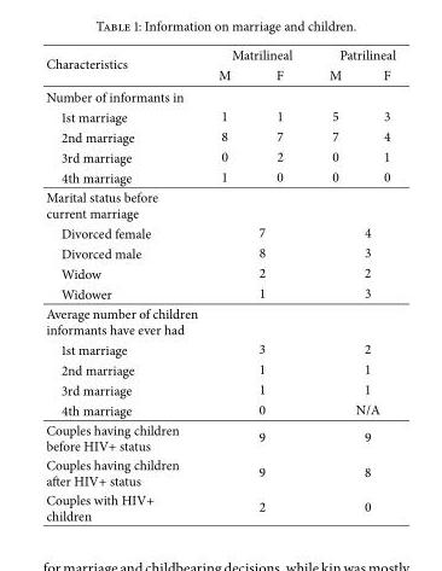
<table><thead><tr><td rowspan="2">Characteristics</td><td colspan="2">Matrilineal</td><td colspan="2">Patrilineal</td></tr><tr><td>M</td><td>F</td><td>M</td><td>F</td></tr></thead><tbody><tr><td colspan="5">Number of informants in</td></tr><tr><td>1st marriage</td><td>1</td><td>1</td><td>5</td><td>3</td></tr><tr><td>2nd marriage</td><td>8</td><td>7</td><td>7</td><td>4</td></tr><tr><td>3rd marriage</td><td>0</td><td>2</td><td>0</td><td>1</td></tr><tr><td>4th marriage</td><td>1</td><td>0</td><td>0</td><td>0</td></tr><tr><td colspan="5">Marital status before current marriage</td></tr><tr><td>Divorced female</td><td colspan="2">7</td><td colspan="2">4</td></tr><tr><td>Divorced male</td><td colspan="2">8</td><td colspan="2">3</td></tr><tr><td>Widow</td><td colspan="2">2</td><td colspan="2">2</td></tr><tr><td>Widower</td><td colspan="2">1</td><td colspan="2">3</td></tr><tr><td colspan="5">Average number of children informants have ever had</td></tr><tr><td>1st marriage</td><td colspan="2">3</td><td colspan="2">2</td></tr><tr><td>2nd marriage</td><td colspan="2">1</td><td colspan="2">1</td></tr><tr><td>3rd marriage</td><td colspan="2">1</td><td colspan="2">1</td></tr><tr><td>4th marriage</td><td colspan="2">0</td><td colspan="2">N/A</td></tr><tr><td>Couples having children before HIV+ status</td><td colspan="2">9</td><td colspan="2">9</td></tr><tr><td>Couples having children after HIV+ status</td><td colspan="2">9</td><td colspan="2">8</td></tr><tr><td>Couples with HIV+ children</td><td colspan="2">2</td><td colspan="2">0</td></tr></tbody></table>